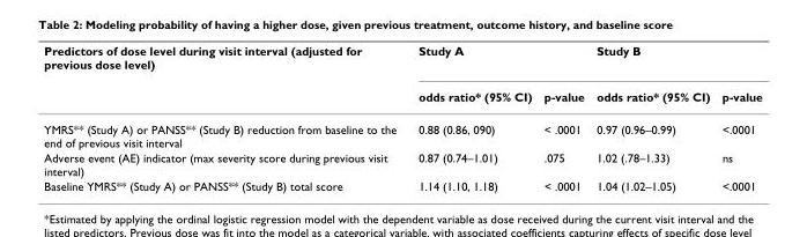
<table><thead><tr><td rowspan="2">Predictors of dose level during visit interval (adjusted for previous dose level)</td><td colspan="2">Study A</td><td colspan="2">Study B</td></tr><tr><td>odds ratio* (95% CI)</td><td>p-value</td><td>odds ratio* (95% CI)</td><td>p-value</td></tr></thead><tbody><tr><td>YMRS** (Study A) or PANSS** (Study B) reduction from baseline to the end of previous visit interval</td><td>0.88 (0.86, 090)</td><td>&lt; .0001</td><td>0.97 (0.96–0.99)</td><td>&lt;.0001</td></tr><tr><td>Adverse event (AE) indicator (max severity score during previous visit interval)</td><td>0.87 (0.74–1.01)</td><td>.075</td><td>1.02 (.78–1.33)</td><td>ns</td></tr><tr><td>Baseline YMRS** (Study A) or PANSS** (Study B) total score</td><td>1.14 (1.10, 1.18)</td><td>&lt; .0001</td><td>1.04 (1.02–1.05)</td><td>&lt;.0001</td></tr></tbody></table>